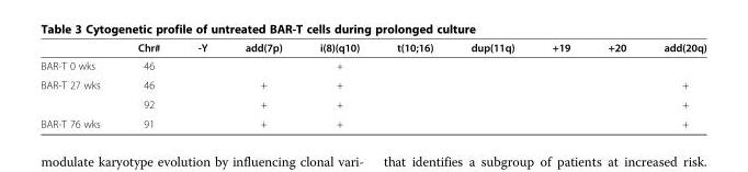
<table><thead><tr><td></td><td>Chr#</td><td>-Y</td><td>add(7p)</td><td>i(8)(q10)</td><td>t(10;16)</td><td>dup(11q)</td><td>+19</td><td>+20</td><td>add(20q)</td></tr></thead><tbody><tr><td>BAR-T 0 wks</td><td>46</td><td></td><td></td><td>+</td><td></td><td></td><td></td><td></td><td></td></tr><tr><td rowspan="2">BAR-T 27 wks</td><td>46</td><td></td><td>+</td><td>+</td><td></td><td></td><td></td><td></td><td>+</td></tr><tr><td>92</td><td></td><td>+</td><td>+</td><td></td><td></td><td></td><td></td><td>+</td></tr><tr><td>BAR-T 76 wks</td><td>91</td><td></td><td>+</td><td>+</td><td></td><td></td><td></td><td></td><td>+</td></tr></tbody></table>